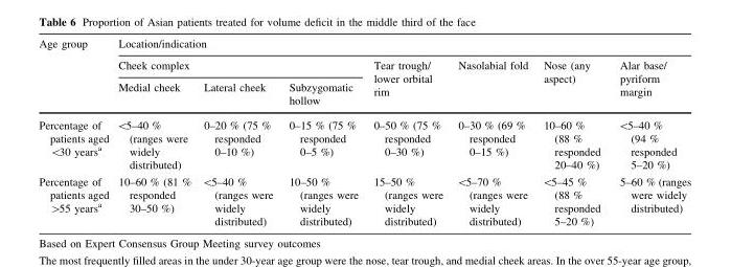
<table><thead><tr><td rowspan="3">Age group</td><td colspan="7">Location/indication</td></tr><tr><td colspan="3">Cheek complex</td><td rowspan="2">Tear trough/ lower orbital rim</td><td rowspan="2">Nasolabial fold</td><td rowspan="2">Nose (any aspect)</td><td rowspan="2">Alar base/ pyriform margin</td></tr><tr><td>Medial cheek</td><td>Lateral cheek</td><td>Subzygomatic hollow</td></tr></thead><tbody><tr><td>Percentage of patients aged &lt;30 years<sup>a</sup></td><td>&lt;5–40 % (ranges were widely distributed)</td><td>0–20 % (75 % responded 0–10 %)</td><td>0–15 % (75 % responded 0–5 %)</td><td>0–50 % (75 % responded 0–30 %)</td><td>0–30 % (69 % responded 0–15 %)</td><td>10–60 % (88 % responded 20–40 %)</td><td>&lt;5–40 % (94 % responded 5–20 %)</td></tr><tr><td>Percentage of patients aged &gt;55 years<sup>a</sup></td><td>10–60 % (81 % responded 30–50 %)</td><td>&lt;5–40 % (ranges were widely distributed)</td><td>10–50 % (ranges were widely distributed)</td><td>15–50 % (ranges were widely distributed)</td><td>&lt;5–70 % (ranges were widely distributed)</td><td>&lt;5–45 % (88 % responded 5–20 %)</td><td>5–60 % (ranges were widely distributed)</td></tr></tbody></table>